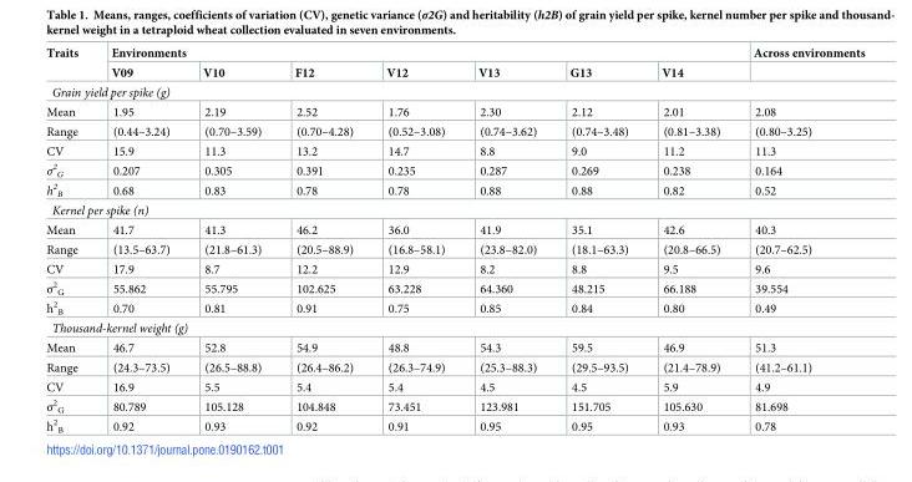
<table><thead><tr><td rowspan="2">Traits</td><td colspan="7">Environments</td><td rowspan="2">Across environments</td></tr><tr><td>V09</td><td>V10</td><td>F12</td><td>V12</td><td>V13</td><td>G13</td><td>V14</td></tr></thead><tbody><tr><td colspan="9">Grain yield per spike (g)</td></tr><tr><td>Mean</td><td>1.95</td><td>2.19</td><td>2.52</td><td>1.76</td><td>2.30</td><td>2.12</td><td>2.01</td><td>2.08</td></tr><tr><td>Range</td><td>(0.44–3.24)</td><td>(0.70–3.59)</td><td>(0.70–4.28)</td><td>(0.52–3.08)</td><td>(0.74–3.62)</td><td>(0.74–3.48)</td><td>(0.81–3.38)</td><td>(0.80–3.25)</td></tr><tr><td>CV</td><td>15.9</td><td>11.3</td><td>13.2</td><td>14.7</td><td>8.8</td><td>9.0</td><td>11.2</td><td>11.3</td></tr><tr><td>σ<sup>2</sup> <sub>G</sub></td><td>0.207</td><td>0.305</td><td>0.391</td><td>0.235</td><td>0.287</td><td>0.269</td><td>0.238</td><td>0.164</td></tr><tr><td>h<sup>2</sup> <sub>B</sub></td><td>0.68</td><td>0.83</td><td>0.78</td><td>0.78</td><td>0.88</td><td>0.88</td><td>0.82</td><td>0.52</td></tr><tr><td colspan="9">Kernel per spike (n)</td></tr><tr><td>Mean</td><td>41.7</td><td>41.3</td><td>46.2</td><td>36.0</td><td>41.9</td><td>35.1</td><td>42.6</td><td>40.3</td></tr><tr><td>Range</td><td>(13.5–63.7)</td><td>(21.8–61.3)</td><td>(20.5–88.9)</td><td>(16.8–58.1)</td><td>(23.8–82.0)</td><td>(18.1–63.3)</td><td>(20.8–66.5)</td><td>(20.7–62.5)</td></tr><tr><td>CV</td><td>17.9</td><td>8.7</td><td>12.2</td><td>12.9</td><td>8.2</td><td>8.8</td><td>9.5</td><td>9.6</td></tr><tr><td>σ<sup>2</sup> <sub>G</sub></td><td>55.862</td><td>55.795</td><td>102.625</td><td>63.228</td><td>64.360</td><td>48.215</td><td>66.188</td><td>39.554</td></tr><tr><td>h<sup>2</sup> <sub>B</sub></td><td>0.70</td><td>0.81</td><td>0.91</td><td>0.75</td><td>0.85</td><td>0.84</td><td>0.80</td><td>0.49</td></tr><tr><td colspan="9">Thousand-kernel weight (g)</td></tr><tr><td>Mean</td><td>46.7</td><td>52.8</td><td>54.9</td><td>48.8</td><td>54.3</td><td>59.5</td><td>46.9</td><td>51.3</td></tr><tr><td>Range</td><td>(24.3–73.5)</td><td>(26.5–88.8)</td><td>(26.4–86.2)</td><td>(26.3–74.9)</td><td>(25.3–88.3)</td><td>(29.5–93.5)</td><td>(21.4–78.9)</td><td>(41.2–61.1)</td></tr><tr><td>CV</td><td>16.9</td><td>5.5</td><td>5.4</td><td>5.4</td><td>4.5</td><td>4.5</td><td>5.9</td><td>4.9</td></tr><tr><td>σ<sup>2</sup> <sub>G</sub></td><td>80.789</td><td>105.128</td><td>104.848</td><td>73.451</td><td>123.981</td><td>151.705</td><td>105.630</td><td>81.698</td></tr><tr><td>h<sup>2</sup> <sub>B</sub></td><td>0.92</td><td>0.93</td><td>0.92</td><td>0.91</td><td>0.95</td><td>0.95</td><td>0.93</td><td>0.78</td></tr></tbody></table>